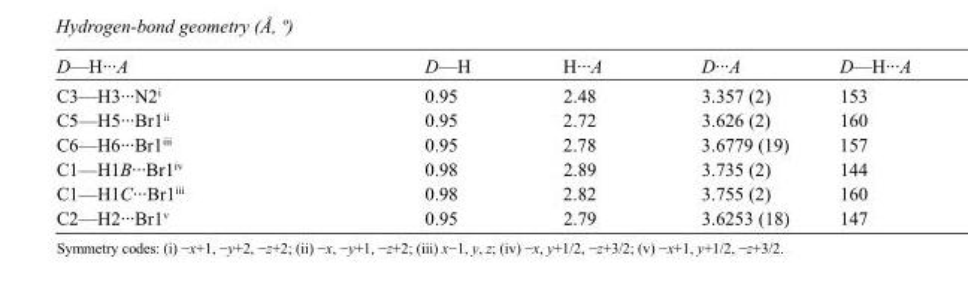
<table><tbody><tr><td>D—H···A</td><td>D—H</td><td>H···A</td><td>D···A</td><td>D—H···A</td></tr><tr><td>C3—H3···N2<sup>i</sup></td><td>0.95</td><td>2.48</td><td>3.357 (2)</td><td>153</td></tr><tr><td>C5—H5···Br1<sup>ii</sup></td><td>0.95</td><td>2.72</td><td>3.626 (2)</td><td>160</td></tr><tr><td>C6—H6···Br1<sup>iii</sup></td><td>0.95</td><td>2.78</td><td>3.6779 (19)</td><td>157</td></tr><tr><td>C1—H1B···Br1<sup>iv</sup></td><td>0.98</td><td>2.89</td><td>3.735 (2)</td><td>144</td></tr><tr><td>C1—H1C···Br1<sup>iii</sup></td><td>0.98</td><td>2.82</td><td>3.755 (2)</td><td>160</td></tr><tr><td>C2—H2···Br1<sup>v</sup></td><td>0.95</td><td>2.79</td><td>3.6253 (18)</td><td>147</td></tr></tbody></table>